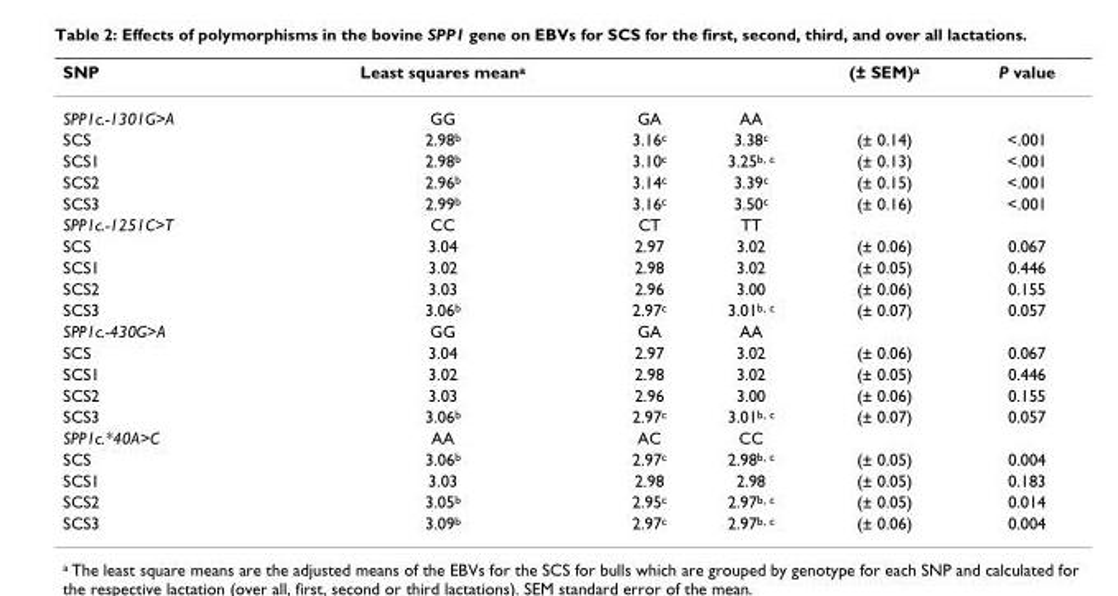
<table><thead><tr><td>SNP</td><td>Least squares mean<sup>a</sup></td><td></td><td></td><td>(± SEM)<sup>a</sup></td><td>P value</td></tr></thead><tbody><tr><td>SPP1c.-1301G&gt;A</td><td>GG</td><td>GA</td><td>AA</td><td></td><td></td></tr><tr><td>SCS</td><td>2.98<sup>b</sup></td><td>3.16<sup>c</sup></td><td>3.38<sup>c</sup></td><td>(± 0.14)</td><td>&lt;.001</td></tr><tr><td>SCS1</td><td>2.98<sup>b</sup></td><td>3.10<sup>c</sup></td><td>3.25<sup>b, c</sup></td><td>(± 0.13)</td><td>&lt;.001</td></tr><tr><td>SCS2</td><td>2.96<sup>b</sup></td><td>3.14<sup>c</sup></td><td>3.39<sup>c</sup></td><td>(± 0.15)</td><td>&lt;.001</td></tr><tr><td>SCS3</td><td>2.99<sup>b</sup></td><td>3.16<sup>c</sup></td><td>3.50<sup>c</sup></td><td>(± 0.16)</td><td>&lt;.001</td></tr><tr><td>SPP1c.-1251C&gt;T</td><td>CC</td><td>CT</td><td>TT</td><td></td><td></td></tr><tr><td>SCS</td><td>3.04</td><td>2.97</td><td>3.02</td><td>(± 0.06)</td><td>0.067</td></tr><tr><td>SCS1</td><td>3.02</td><td>2.98</td><td>3.02</td><td>(± 0.05)</td><td>0.446</td></tr><tr><td>SCS2</td><td>3.03</td><td>2.96</td><td>3.00</td><td>(± 0.06)</td><td>0.155</td></tr><tr><td>SCS3</td><td>3.06<sup>b</sup></td><td>2.97<sup>c</sup></td><td>3.01<sup>b, c</sup></td><td>(± 0.07)</td><td>0.057</td></tr><tr><td>SPP1c.-430G&gt;A</td><td>GG</td><td>GA</td><td>AA</td><td></td><td></td></tr><tr><td>SCS</td><td>3.04</td><td>2.97</td><td>3.02</td><td>(± 0.06)</td><td>0.067</td></tr><tr><td>SCS1</td><td>3.02</td><td>2.98</td><td>3.02</td><td>(± 0.05)</td><td>0.446</td></tr><tr><td>SCS2</td><td>3.03</td><td>2.96</td><td>3.00</td><td>(± 0.06)</td><td>0.155</td></tr><tr><td>SCS3</td><td>3.06<sup>b</sup></td><td>2.97<sup>c</sup></td><td>3.01<sup>b, c</sup></td><td>(± 0.07)</td><td>0.057</td></tr><tr><td>SPP1c.*40A&gt;C</td><td>AA</td><td>AC</td><td>CC</td><td></td><td></td></tr><tr><td>SCS</td><td>3.06<sup>b</sup></td><td>2.97<sup>c</sup></td><td>2.98<sup>b, c</sup></td><td>(± 0.05)</td><td>0.004</td></tr><tr><td>SCS1</td><td>3.03</td><td>2.98</td><td>2.98</td><td>(± 0.05)</td><td>0.183</td></tr><tr><td>SCS2</td><td>3.05<sup>b</sup></td><td>2.95<sup>c</sup></td><td>2.97<sup>b, c</sup></td><td>(± 0.05)</td><td>0.014</td></tr><tr><td>SCS3</td><td>3.09<sup>b</sup></td><td>2.97<sup>c</sup></td><td>2.97<sup>b, c</sup></td><td>(± 0.06)</td><td>0.004</td></tr></tbody></table>